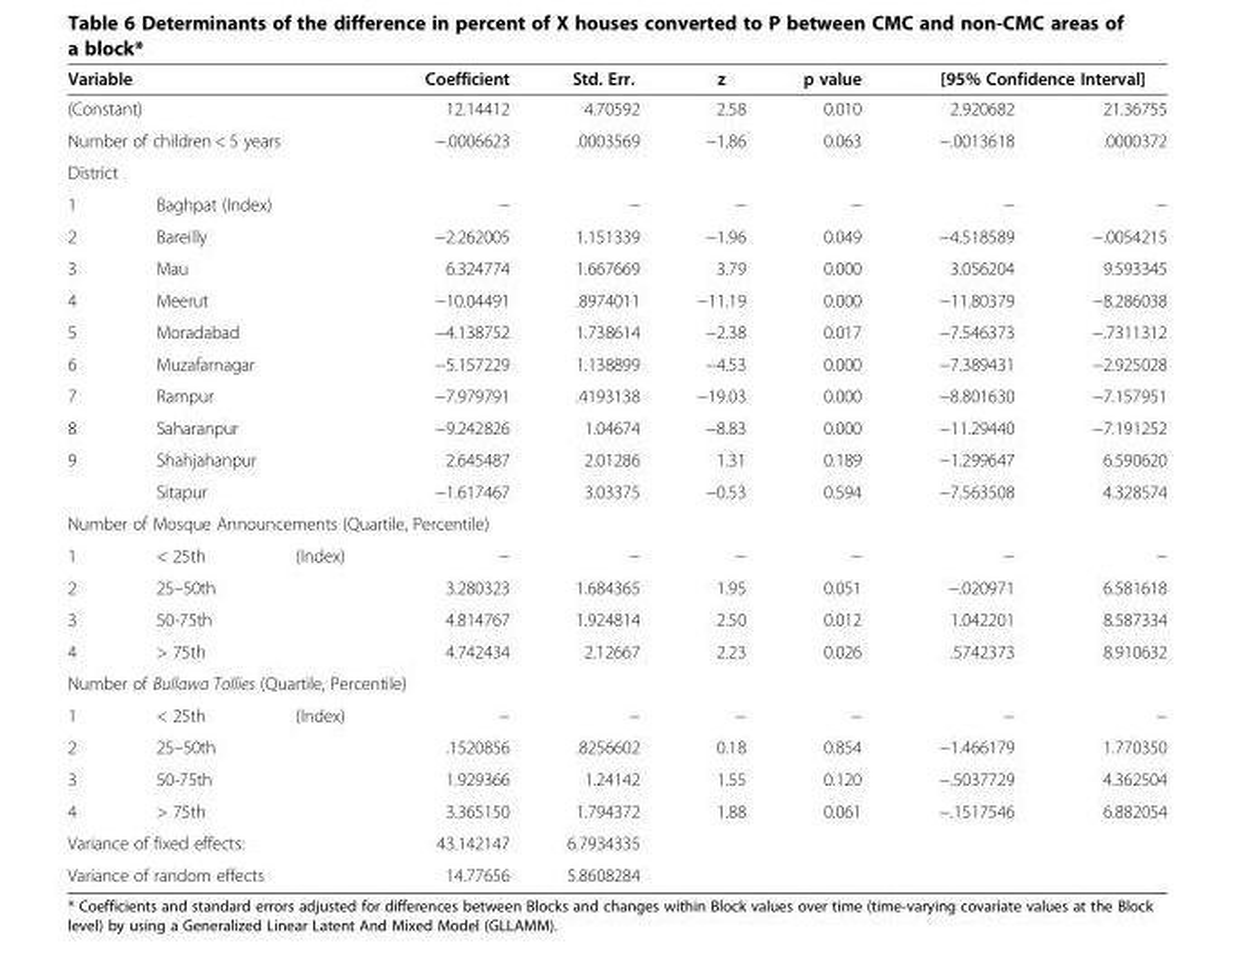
<table><thead><tr><td colspan="3">Variable</td><td>Coefficient</td><td>Std. Err.</td><td>z</td><td>p value</td><td colspan="2">[95% Confidence Interval]</td></tr></thead><tbody><tr><td colspan="3">(Constant)</td><td>12.14412</td><td>4.70592</td><td>2.58</td><td>0.010</td><td>2.920682</td><td>21.36755</td></tr><tr><td colspan="3">Number of children &lt; 5 years</td><td>−.0006623</td><td>.0003569</td><td>−1.86</td><td>0.063</td><td>−.0013618</td><td>.0000372</td></tr><tr><td colspan="9">District</td></tr><tr><td>1</td><td colspan="2">Baghpat (Index)</td><td>−</td><td>−</td><td>−</td><td>−</td><td>−</td><td>−</td></tr><tr><td>2</td><td colspan="2">Bareilly</td><td>−2.262005</td><td>1.151339</td><td>−1.96</td><td>0.049</td><td>−4.518589</td><td>−.0054215</td></tr><tr><td>3</td><td colspan="2">Mau</td><td>6.324774</td><td>1.667669</td><td>3.79</td><td>0.000</td><td>3.056204</td><td>9.593345</td></tr><tr><td>4</td><td colspan="2">Meerut</td><td>−10.04491</td><td>.8974011</td><td>−11.19</td><td>0.000</td><td>−11.80379</td><td>−8.286038</td></tr><tr><td>5</td><td colspan="2">Moradabad</td><td>−4.138752</td><td>1.738614</td><td>−2.38</td><td>0.017</td><td>−7.546373</td><td>−.7311312</td></tr><tr><td>6</td><td colspan="2">Muzafarnagar</td><td>−5.157229</td><td>1.138899</td><td>−4.53</td><td>0.000</td><td>−7.389431</td><td>−2.925028</td></tr><tr><td>7</td><td colspan="2">Rampur</td><td>−7.979791</td><td>.4193138</td><td>−19.03</td><td>0.000</td><td>−8.801630</td><td>−7.157951</td></tr><tr><td>8</td><td colspan="2">Saharanpur</td><td>−9.242826</td><td>1.04674</td><td>−8.83</td><td>0.000</td><td>−11.29440</td><td>−7.191252</td></tr><tr><td rowspan="2">9</td><td colspan="2">Shahjahanpur</td><td>2.645487</td><td>2.01286</td><td>1.31</td><td>0.189</td><td>−1.299647</td><td>6.590620</td></tr><tr><td colspan="2">Sitapur</td><td>−1.617467</td><td>3.03375</td><td>−0.53</td><td>0.594</td><td>−7.563508</td><td>4.328574</td></tr><tr><td colspan="9">Number of Mosque Announcements (Quartile, Percentile)</td></tr><tr><td>1</td><td>&lt; 25th</td><td rowspan="4">(Index)</td><td>−</td><td>−</td><td>−</td><td>−</td><td>−</td><td>−</td></tr><tr><td>2</td><td>25–50th</td><td>3.280323</td><td>1.684365</td><td>1.95</td><td>0.051</td><td>−.020971</td><td>6.581618</td></tr><tr><td>3</td><td>50-75th</td><td>4.814767</td><td>1.924814</td><td>2.50</td><td>0.012</td><td>1.042201</td><td>8.587334</td></tr><tr><td>4</td><td>&gt; 75th</td><td>4.742434</td><td>2.12667</td><td>2.23</td><td>0.026</td><td>.5742373</td><td>8.910632</td></tr><tr><td colspan="9">Number of Bullawa Tollies (Quartile, Percentile)</td></tr><tr><td>1</td><td>&lt; 25th</td><td rowspan="4">(Index)</td><td>−</td><td>−</td><td>−</td><td>−</td><td>−</td><td>−</td></tr><tr><td>2</td><td>25–50th</td><td>.1520856</td><td>.8256602</td><td>0.18</td><td>0.854</td><td>−1.466179</td><td>1.770350</td></tr><tr><td>3</td><td>50-75th</td><td>1.929366</td><td>1.24142</td><td>1.55</td><td>0.120</td><td>−.5037729</td><td>4.362504</td></tr><tr><td>4</td><td>&gt; 75th</td><td>3.365150</td><td>1.794372</td><td>1.88</td><td>0.061</td><td>−.1517546</td><td>6.882054</td></tr><tr><td colspan="3">Variance of fixed effects:</td><td>43.142147</td><td>6.7934335</td><td></td><td></td><td></td><td></td></tr><tr><td colspan="3">Variance of random effects</td><td>14.77656</td><td>5.8608284</td><td></td><td></td><td></td><td></td></tr></tbody></table>